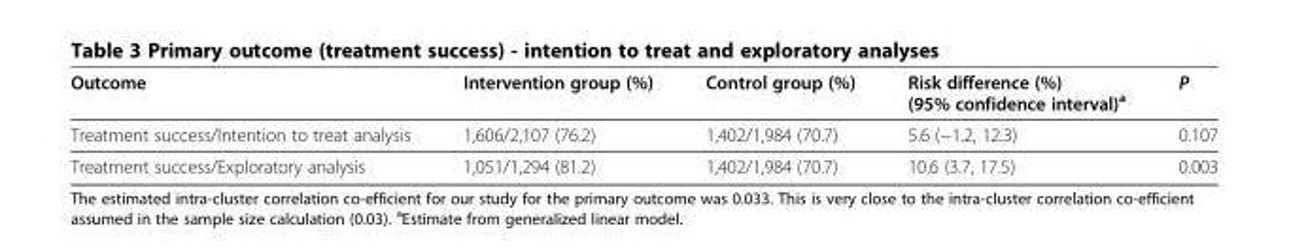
<table><thead><tr><td>Outcome</td><td>Intervention group (%)</td><td>Control group (%)</td><td>Risk difference (%) (95% confidence interval)<sup>a</sup></td><td>P</td></tr></thead><tbody><tr><td>Treatment success/Intention to treat analysis</td><td>1,606/2,107 (76.2)</td><td>1,402/1,984 (70.7)</td><td>5.6 (−1.2, 12.3)</td><td>0.107</td></tr><tr><td>Treatment success/Exploratory analysis</td><td>1,051/1,294 (81.2)</td><td>1,402/1,984 (70.7)</td><td>10.6 (3.7, 17.5)</td><td>0.003</td></tr></tbody></table>